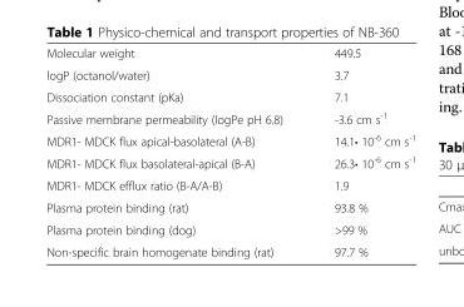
<table><tbody><tr><td>Molecular weight</td><td>449.5</td></tr><tr><td>logP (octanol/water)</td><td>3.7</td></tr><tr><td>Dissociation constant (pKa)</td><td>7.1</td></tr><tr><td>Passive membrane permeability (logPe pH 6.8)</td><td>-3.6 cm s<sup>-1</sup></td></tr><tr><td>MDR1- MDCK flux apical-basolateral (A-B)</td><td>14.1• 10<sup>-6</sup> cm s<sup>-1</sup></td></tr><tr><td>MDR1- MDCK flux basolateral-apical (B-A)</td><td>26.3• 10<sup>-6</sup> cm s<sup>-1</sup></td></tr><tr><td>MDR1- MDCK efflux ratio (B-A/A-B)</td><td>1.9</td></tr><tr><td>Plasma protein binding (rat)</td><td>93.8 %</td></tr><tr><td>Plasma protein binding (dog)</td><td>&gt;99 %</td></tr><tr><td>Non-specific brain homogenate binding (rat)</td><td>97.7 %</td></tr></tbody></table>